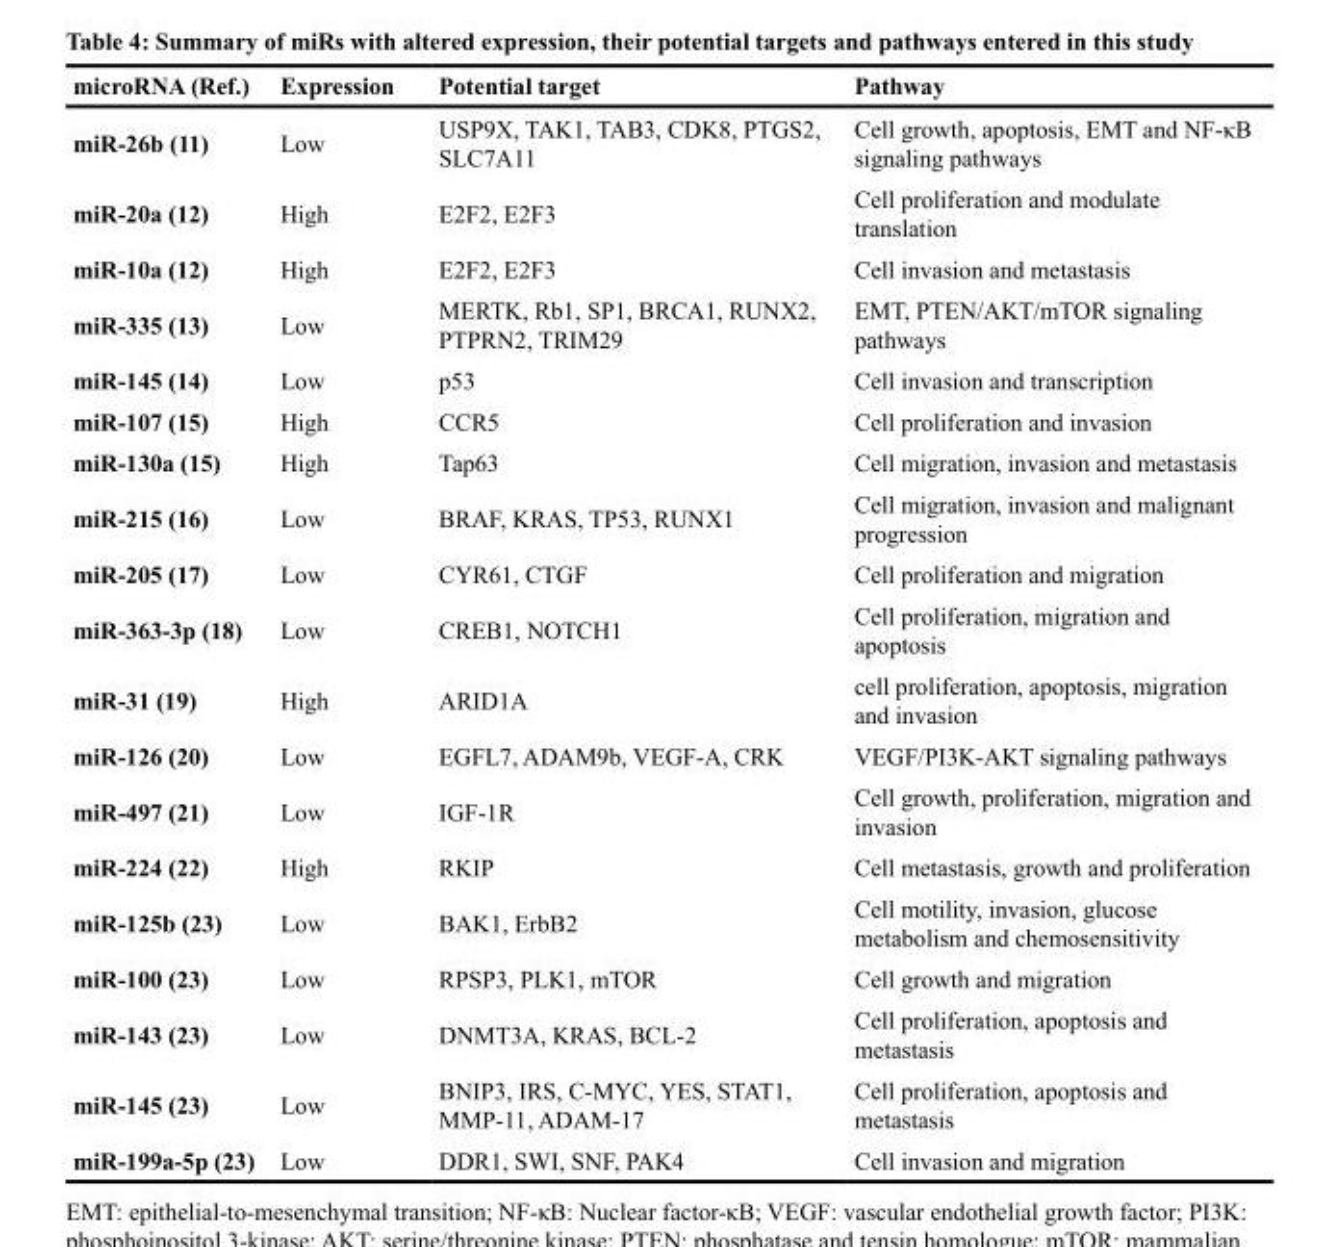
<table><thead><tr><td>microRNA (Ref.)</td><td>Expression</td><td>Potential target</td><td>Pathway</td></tr></thead><tbody><tr><td>miR-26b (11)</td><td>Low</td><td>USP9X, TAK1, TAB3, CDK8, PTGS2, SLC7A11</td><td>Cell growth, apoptosis, EMT and NF-κB signaling pathways</td></tr><tr><td>miR-20a (12)</td><td>High</td><td>E2F2, E2F3</td><td>Cell proliferation and modulate translation</td></tr><tr><td>miR-10a (12)</td><td>High</td><td>E2F2, E2F3</td><td>Cell invasion and metastasis</td></tr><tr><td>miR-335 (13)</td><td>Low</td><td>MERTK, Rb1, SP1, BRCA1, RUNX2, PTPRN2, TRIM29</td><td>EMT, PTEN/AKT/mTOR signaling pathways</td></tr><tr><td>miR-145 (14)</td><td>Low</td><td>p53</td><td>Cell invasion and transcription</td></tr><tr><td>miR-107 (15)</td><td>High</td><td>CCR5</td><td>Cell proliferation and invasion</td></tr><tr><td>miR-130a (15)</td><td>High</td><td>Tap63</td><td>Cell migration, invasion and metastasis</td></tr><tr><td>miR-215 (16)</td><td>Low</td><td>BRAF, KRAS, TP53, RUNX1</td><td>Cell migration, invasion and malignant progression</td></tr><tr><td>miR-205 (17)</td><td>Low</td><td>CYR61, CTGF</td><td>Cell proliferation and migration</td></tr><tr><td>miR-363-3p (18)</td><td>Low</td><td>CREB1, NOTCH1</td><td>Cell proliferation, migration and apoptosis</td></tr><tr><td>miR-31 (19)</td><td>High</td><td>ARID1A</td><td>cell proliferation, apoptosis, migration and invasion</td></tr><tr><td>miR-126 (20)</td><td>Low</td><td>EGFL7, ADAM9b, VEGF-A, CRK</td><td>VEGF/PI3K-AKT signaling pathways</td></tr><tr><td>miR-497 (21)</td><td>Low</td><td>IGF-1R</td><td>Cell growth, proliferation, migration and invasion</td></tr><tr><td>miR-224 (22)</td><td>High</td><td>RKIP</td><td>Cell metastasis, growth and proliferation</td></tr><tr><td>miR-125b (23)</td><td>Low</td><td>BAK1, ErbB2</td><td>Cell motility, invasion, glucose metabolism and chemosensitivity</td></tr><tr><td>miR-100 (23)</td><td>Low</td><td>RPSP3, PLK1, mTOR</td><td>Cell growth and migration</td></tr><tr><td>miR-143 (23)</td><td>Low</td><td>DNMT3A, KRAS, BCL-2</td><td>Cell proliferation, apoptosis and metastasis</td></tr><tr><td>miR-145 (23)</td><td>Low</td><td>BNIP3, IRS, C-MYC, YES, STAT1, MMP-11, ADAM-17</td><td>Cell proliferation, apoptosis and metastasis</td></tr><tr><td>miR-199a-5p (23)</td><td>Low</td><td>DDR1, SWI, SNF, PAK4</td><td>Cell invasion and migration</td></tr></tbody></table>